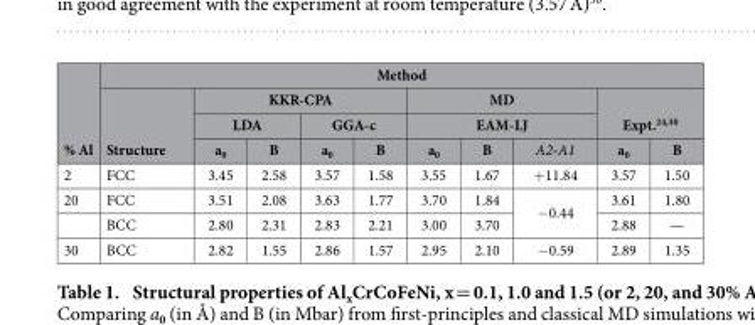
<table><thead><tr><td rowspan="4">% Al</td><td colspan="10">Method</td></tr><tr><td rowspan="3">Structure</td><td colspan="4">KKR-CPA</td><td rowspan="2" colspan="3">MD EAM-LJ</td><td></td><td></td></tr><tr><td colspan="2">LDA</td><td colspan="2">GGA-c</td><td colspan="2">Expt.<sup>24</sup>,<sup>30</sup></td></tr><tr><td>a<sub>0</sub></td><td>B</td><td>a<sub>0</sub></td><td>B</td><td>a<sub>0</sub></td><td>B</td><td>A2-A1</td><td>a<sub>0</sub></td><td>B</td></tr></thead><tbody><tr><td>2</td><td>FCC</td><td>3.45</td><td>2.58</td><td>3.57</td><td>1.58</td><td>3.55</td><td>1.67</td><td>+ 11.84</td><td>3.57</td><td>1.50</td></tr><tr><td rowspan="2">20</td><td>FCC</td><td>3.51</td><td>2.08</td><td>3.63</td><td>1.77</td><td>3.70</td><td>1.84</td><td rowspan="2">− 0.44</td><td>3.61</td><td>1.80</td></tr><tr><td>BCC</td><td>2.80</td><td>2.31</td><td>2.83</td><td>2.21</td><td>3.00</td><td>3.70</td><td>2.88</td><td>—</td></tr><tr><td>30</td><td>BCC</td><td>2.82</td><td>1.55</td><td>2.86</td><td>1.57</td><td>2.95</td><td>2.10</td><td>− 0.59</td><td>2.89</td><td>1.35</td></tr></tbody></table>